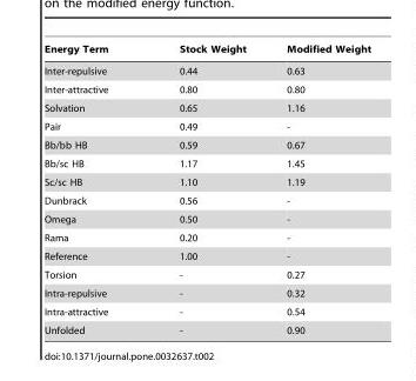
<table><thead><tr><td>Energy Term</td><td>Stock Weight</td><td>Modified Weight</td></tr></thead><tbody><tr><td>Inter-repulsive</td><td>0.44</td><td>0.63</td></tr><tr><td>Inter-attractive</td><td>0.80</td><td>0.80</td></tr><tr><td>Solvation</td><td>0.65</td><td>1.16</td></tr><tr><td>Pair</td><td>0.49</td><td>-</td></tr><tr><td>Bb/bb HB</td><td>0.59</td><td>0.67</td></tr><tr><td>Bb/sc HB</td><td>1.17</td><td>1.45</td></tr><tr><td>Sc/sc HB</td><td>1.10</td><td>1.19</td></tr><tr><td>Dunbrack</td><td>0.56</td><td>-</td></tr><tr><td>Omega</td><td>0.50</td><td>-</td></tr><tr><td>Rama</td><td>0.20</td><td>-</td></tr><tr><td>Reference</td><td>1.00</td><td>-</td></tr><tr><td>Torsion</td><td>-</td><td>0.27</td></tr><tr><td>Intra-repulsive</td><td>-</td><td>0.32</td></tr><tr><td>Intra-attractive</td><td>-</td><td>0.54</td></tr><tr><td>Unfolded</td><td>-</td><td>0.90</td></tr></tbody></table>